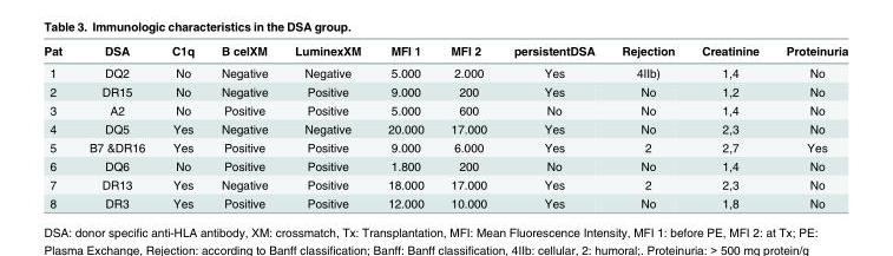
<table><thead><tr><td>Pat</td><td>DSA</td><td>C1q</td><td>B celXM</td><td>LuminexXM</td><td>MFI 1</td><td>MFI 2</td><td>persistentDSA</td><td>Rejection</td><td>Creatinine</td><td>Proteinuria</td></tr></thead><tbody><tr><td>1</td><td>DQ2</td><td>No</td><td>Negative</td><td>Negative</td><td>5.000</td><td>2.000</td><td>Yes</td><td>4IIb)</td><td>1,4</td><td>No</td></tr><tr><td>2</td><td>DR15</td><td>No</td><td>Negative</td><td>Positive</td><td>9.000</td><td>200</td><td>Yes</td><td>No</td><td>1,2</td><td>No</td></tr><tr><td>3</td><td>A2</td><td>No</td><td>Positive</td><td>Positive</td><td>5.000</td><td>600</td><td>No</td><td>No</td><td>1,4</td><td>No</td></tr><tr><td>4</td><td>DQ5</td><td>Yes</td><td>Negative</td><td>Negative</td><td>20.000</td><td>17.000</td><td>Yes</td><td>No</td><td>2,3</td><td>No</td></tr><tr><td>5</td><td>B7 &amp;DR16</td><td>Yes</td><td>Positive</td><td>Positive</td><td>9.000</td><td>6.000</td><td>Yes</td><td>2</td><td>2,7</td><td>Yes</td></tr><tr><td>6</td><td>DQ6</td><td>No</td><td>Positive</td><td>Positive</td><td>1.800</td><td>200</td><td>No</td><td>No</td><td>1,4</td><td>No</td></tr><tr><td>7</td><td>DR13</td><td>Yes</td><td>Negative</td><td>Positive</td><td>18.000</td><td>17.000</td><td>Yes</td><td>2</td><td>2,3</td><td>No</td></tr><tr><td>8</td><td>DR3</td><td>Yes</td><td>Positive</td><td>Positive</td><td>12.000</td><td>10.000</td><td>Yes</td><td>No</td><td>1,8</td><td>No</td></tr></tbody></table>